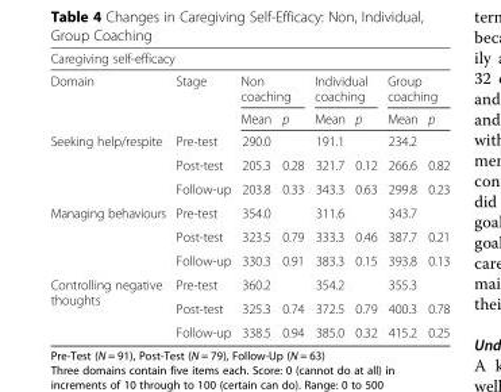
<table><thead><tr><td colspan="8">Caregiving self-efficacy</td></tr><tr><td rowspan="2">Domain</td><td rowspan="2">Stage</td><td colspan="2">Non coaching</td><td colspan="2">Individual coaching</td><td colspan="2">Group coaching</td></tr><tr><td>Mean</td><td>p</td><td>Mean</td><td>p</td><td>Mean</td><td>p</td></tr></thead><tbody><tr><td rowspan="3">Seeking help/respite</td><td>Pre-test</td><td>290.0</td><td></td><td>191.1</td><td></td><td>234.2</td><td></td></tr><tr><td>Post-test</td><td>205.3</td><td>0.28</td><td>321.7</td><td>0.12</td><td>266.6</td><td>0.82</td></tr><tr><td>Follow-up</td><td>203.8</td><td>0.33</td><td>343.3</td><td>0.63</td><td>299.8</td><td>0.23</td></tr><tr><td rowspan="3">Managing behaviours</td><td>Pre-test</td><td>354.0</td><td></td><td>311.6</td><td></td><td>343.7</td><td></td></tr><tr><td>Post-test</td><td>323.5</td><td>0.79</td><td>333.3</td><td>0.46</td><td>387.7</td><td>0.21</td></tr><tr><td>Follow-up</td><td>330.3</td><td>0.91</td><td>383.3</td><td>0.15</td><td>393.8</td><td>0.13</td></tr><tr><td rowspan="3">Controlling negative thoughts</td><td>Pre-test</td><td>360.2</td><td></td><td>354.2</td><td></td><td>355.3</td><td></td></tr><tr><td>Post-test</td><td>325.3</td><td>0.74</td><td>372.5</td><td>0.79</td><td>400.3</td><td>0.78</td></tr><tr><td>Follow-up</td><td>338.5</td><td>0.94</td><td>385.0</td><td>0.32</td><td>415.2</td><td>0.25</td></tr></tbody></table>